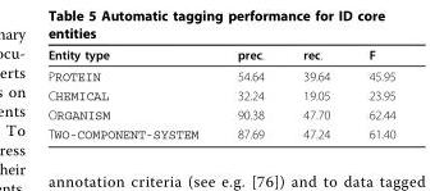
<table><thead><tr><td>Entity type</td><td>prec.</td><td>rec.</td><td>F</td></tr></thead><tbody><tr><td>PROTEIN</td><td>54.64</td><td>39.64</td><td>45.95</td></tr><tr><td>CHEMICAL</td><td>32.24</td><td>19.05</td><td>23.95</td></tr><tr><td>ORGANISM</td><td>90.38</td><td>47.70</td><td>62.44</td></tr><tr><td>TWO-COMPONENT-SYSTEM</td><td>87.69</td><td>47.24</td><td>61.40</td></tr></tbody></table>